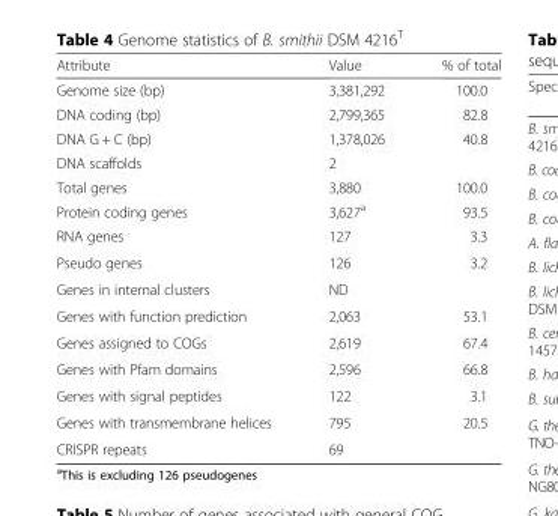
<table><thead><tr><td>Attribute</td><td>Value</td><td>% of total</td></tr></thead><tbody><tr><td>Genome size (bp)</td><td>3,381,292</td><td>100.0</td></tr><tr><td>DNA coding (bp)</td><td>2,799,365</td><td>82.8</td></tr><tr><td>DNA G + C (bp)</td><td>1,378,026</td><td>40.8</td></tr><tr><td>DNA scaffolds</td><td>2</td><td></td></tr><tr><td>Total genes</td><td>3,880</td><td>100.0</td></tr><tr><td>Protein coding genes</td><td>3,627<sup>a</sup></td><td>93.5</td></tr><tr><td>RNA genes</td><td>127</td><td>3.3</td></tr><tr><td>Pseudo genes</td><td>126</td><td>3.2</td></tr><tr><td>Genes in internal clusters</td><td>ND</td><td></td></tr><tr><td>Genes with function prediction</td><td>2,063</td><td>53.1</td></tr><tr><td>Genes assigned to COGs</td><td>2,619</td><td>67.4</td></tr><tr><td>Genes with Pfam domains</td><td>2,596</td><td>66.8</td></tr><tr><td>Genes with signal peptides</td><td>122</td><td>3.1</td></tr><tr><td>Genes with transmembrane helices</td><td>795</td><td>20.5</td></tr><tr><td>CRISPR repeats</td><td>69</td><td></td></tr></tbody></table>